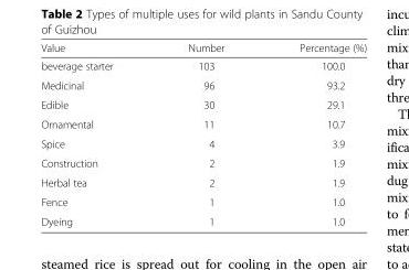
<table><thead><tr><td>Value</td><td>Number</td><td>Percentage (%)</td></tr></thead><tbody><tr><td>beverage starter</td><td>103</td><td>100.0</td></tr><tr><td>Medicinal</td><td>96</td><td>93.2</td></tr><tr><td>Edible</td><td>30</td><td>29.1</td></tr><tr><td>Ornamental</td><td>11</td><td>10.7</td></tr><tr><td>Spice</td><td>4</td><td>3.9</td></tr><tr><td>Construction</td><td>2</td><td>1.9</td></tr><tr><td>Herbal tea</td><td>2</td><td>1.9</td></tr><tr><td>Fence</td><td>1</td><td>1.0</td></tr><tr><td>Dyeing</td><td>1</td><td>1.0</td></tr></tbody></table>